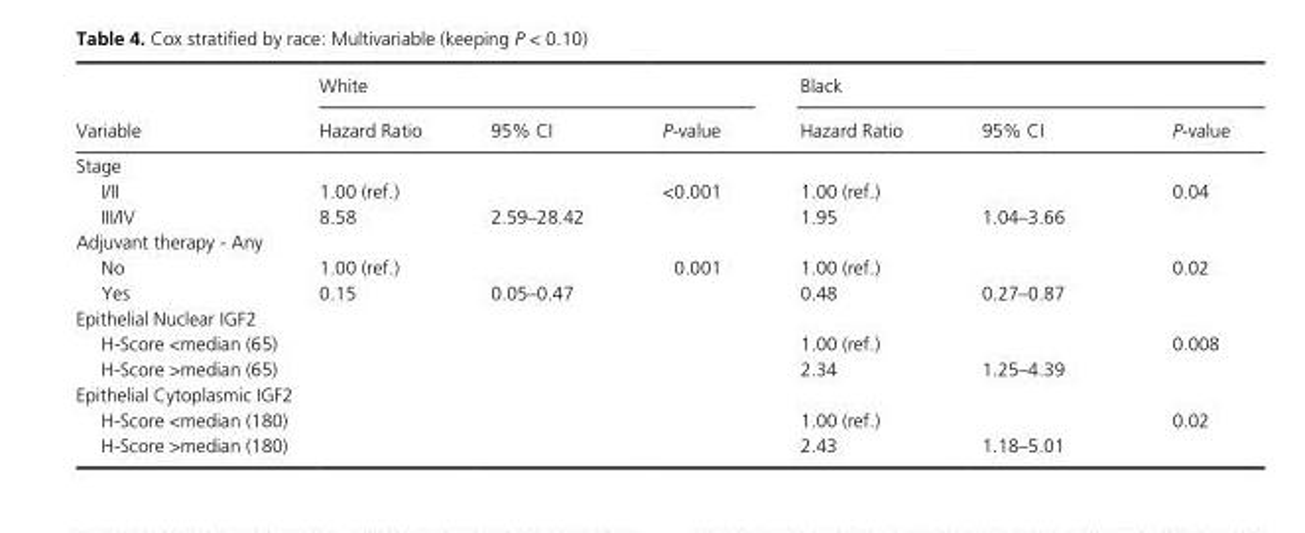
<table><thead><tr><td rowspan="2">Variable</td><td colspan="3">White</td><td colspan="3">Black</td></tr><tr><td>Hazard Ratio</td><td>95% CI</td><td>P- value</td><td>Hazard Ratio</td><td>95% CI</td><td>P- value</td></tr></thead><tbody><tr><td colspan="7">Stage</td></tr><tr><td>I/II</td><td>1.00 (ref.)</td><td></td><td rowspan="2">&lt;0.001</td><td>1.00 (ref.)</td><td></td><td rowspan="2">0.04</td></tr><tr><td>III/IV</td><td>8.58</td><td>2.59–28.42</td><td>1.95</td><td>1.04–3.66</td></tr><tr><td colspan="7">Adjuvant therapy - Any</td></tr><tr><td>No</td><td>1.00 (ref.)</td><td></td><td rowspan="2">0.001</td><td>1.00 (ref.)</td><td></td><td rowspan="2">0.02</td></tr><tr><td>Yes</td><td>0.15</td><td>0.05–0.47</td><td>0.48</td><td>0.27–0.87</td></tr><tr><td colspan="7">Epithelial Nuclear IGF2</td></tr><tr><td>H- Score &lt;median (65)</td><td></td><td></td><td></td><td>1.00 (ref.)</td><td></td><td rowspan="2">0.008</td></tr><tr><td>H- Score &gt;median (65)</td><td></td><td></td><td></td><td>2.34</td><td>1.25–4.39</td></tr><tr><td colspan="7">Epithelial Cytoplasmic IGF2</td></tr><tr><td>H- Score &lt;median (180)</td><td></td><td></td><td></td><td>1.00 (ref.)</td><td></td><td rowspan="2">0.02</td></tr><tr><td>H- Score &gt;median (180)</td><td></td><td></td><td></td><td>2.43</td><td>1.18–5.01</td></tr></tbody></table>